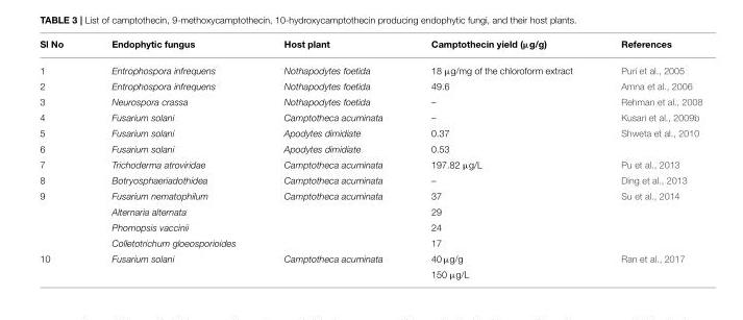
<table><thead><tr><td>Sl No</td><td>Endophytic fungus</td><td>Host plant</td><td>Camptothecin yield (µg/g)</td><td>References</td></tr></thead><tbody><tr><td>1</td><td>Entrophospora infrequens</td><td>Nothapodytes foetida</td><td>18 µg/mg of the chloroform extract</td><td>Puri et al., 2005</td></tr><tr><td>2</td><td>Entrophospora infrequens</td><td>Nothapodytes foetida</td><td>49.6</td><td>Amna et al., 2006</td></tr><tr><td>3</td><td>Neurospora crassa</td><td>Nothapodytes foetida</td><td>–</td><td>Rehman et al., 2008</td></tr><tr><td>4</td><td>Fusarium solani</td><td>Camptotheca acuminata</td><td>–</td><td>Kusari et al., 2009b</td></tr><tr><td>5</td><td>Fusarium solani</td><td>Apodytes dimidiate</td><td>0.37</td><td>Shweta et al., 2010</td></tr><tr><td>6</td><td>Fusarium solani</td><td>Apodytes dimidiate</td><td>0.53</td><td></td></tr><tr><td>7</td><td>Trichoderma atroviridae</td><td>Camptotheca acuminata</td><td>197.82 µg/L</td><td>Pu et al., 2013</td></tr><tr><td>8</td><td>Botryosphaeriadothidea</td><td>Camptotheca acuminata</td><td>–</td><td>Ding et al., 2013</td></tr><tr><td rowspan="4">9</td><td>Fusarium nematophilum</td><td>Camptotheca acuminata</td><td>37</td><td>Su et al., 2014</td></tr><tr><td>Alternaria alternata</td><td></td><td>29</td><td></td></tr><tr><td>Phomopsis vaccinii</td><td></td><td>24</td><td></td></tr><tr><td>Colletotrichum gloeosporioides</td><td></td><td>17</td><td></td></tr><tr><td rowspan="2">10</td><td>Fusarium solani</td><td>Camptotheca acuminata</td><td>40 µg/g</td><td>Ran et al., 2017</td></tr><tr><td></td><td></td><td>150 µg/L</td><td></td></tr></tbody></table>